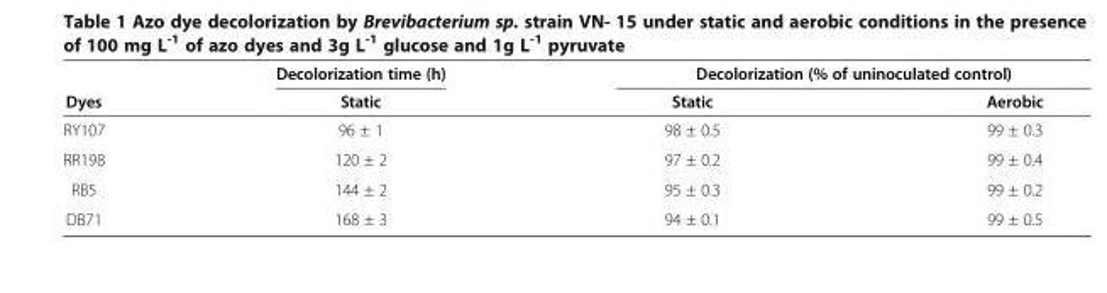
<table><thead><tr><td rowspan="2">Dyes</td><td rowspan="2">Decolorization time (h) Static</td><td colspan="2">Decolorization (% of uninoculated control)</td></tr><tr><td>Static</td><td>Aerobic</td></tr></thead><tbody><tr><td>RY107</td><td>96 ± 1</td><td>98 ± 0.5</td><td>99 ± 0.3</td></tr><tr><td>RR198</td><td>120 ± 2</td><td>97 ± 0.2</td><td>99 ± 0.4</td></tr><tr><td>RB5</td><td>144 ± 2</td><td>95 ± 0.3</td><td>99 ± 0.2</td></tr><tr><td>DB71</td><td>168 ± 3</td><td>94 ± 0.1</td><td>99 ± 0.5</td></tr></tbody></table>